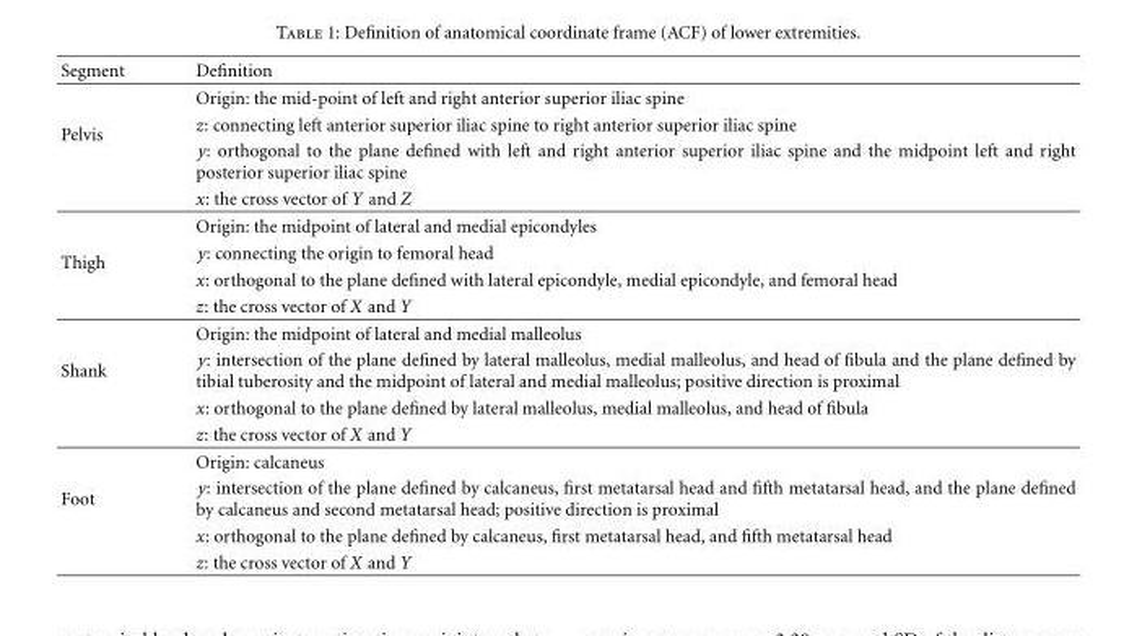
<table><thead><tr><td>Segment</td><td>Definition</td></tr></thead><tbody><tr><td rowspan="4">Pelvis</td><td>Origin: the mid-point of left and right anterior superior iliac spine</td></tr><tr><td>z: connecting left anterior superior iliac spine to right anterior superior iliac spine</td></tr><tr><td>y: orthogonal to the plane defined with left and right anterior superior iliac spine and the midpoint left and right posterior superior iliac spine</td></tr><tr><td>x: the cross vector of Y and Z</td></tr><tr><td rowspan="4">Thigh</td><td>Origin: the midpoint of lateral and medial epicondyles</td></tr><tr><td>y: connecting the origin to femoral head</td></tr><tr><td>x: orthogonal to the plane defined with lateral epicondyle, medial epicondyle, and femoral head</td></tr><tr><td>z: the cross vector of X and Y</td></tr><tr><td rowspan="4">Shank</td><td>Origin: the midpoint of lateral and medial malleolus</td></tr><tr><td>y: intersection of the plane defined by lateral malleolus, medial malleolus, and head of fibula and the plane defined by tibial tuberosity and the midpoint of lateral and medial malleolus; positive direction is proximal</td></tr><tr><td>x: orthogonal to the plane defined by lateral malleolus, medial malleolus, and head of fibula</td></tr><tr><td>z: the cross vector of X and Y</td></tr><tr><td rowspan="4">Foot</td><td>Origin: calcaneus</td></tr><tr><td>y: intersection of the plane defined by calcaneus, first metatarsal head and fifth metatarsal head, and the plane defined by calcaneus and second metatarsal head; positive direction is proximal</td></tr><tr><td>x: orthogonal to the plane defined by calcaneus, first metatarsal head, and fifth metatarsal head</td></tr><tr><td>z: the cross vector of X and Y</td></tr></tbody></table>